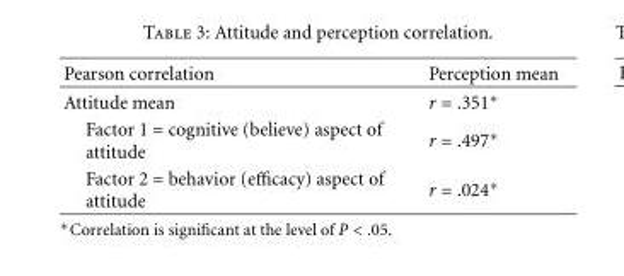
<table><thead><tr><td>Pearson correlation</td><td>Perception mean</td></tr></thead><tbody><tr><td>Attitude mean</td><td>r = .351∗</td></tr><tr><td>Factor 1 = cognitive (believe) aspect of attitude</td><td>r = .497∗</td></tr><tr><td>Factor 2 = behavior (efficacy) aspect of attitude</td><td>r = .024∗</td></tr></tbody></table>